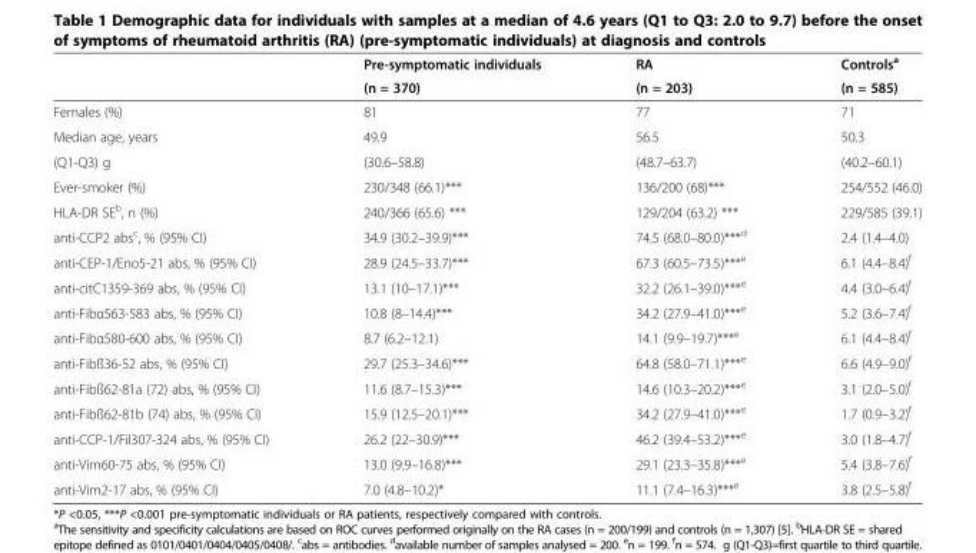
<table><thead><tr><td rowspan="2"></td><td rowspan="2">Pre-symptomatic individuals (n = 370)</td><td rowspan="2">RA (n = 203)</td><td rowspan="2">Controls<sup>a</sup> (n = 585)</td></tr><tr></tr></thead><tbody><tr><td>Females (%)</td><td>81</td><td>77</td><td>71</td></tr><tr><td>Median age, years</td><td>49.9</td><td>56.5</td><td>50.3</td></tr><tr><td>(Q1-Q3) g</td><td>(30.6–58.8)</td><td>(48.7–63.7)</td><td>(40.2–60.1)</td></tr><tr><td>Ever-smoker (%)</td><td>230/348 (66.1)***</td><td>136/200 (68)***</td><td>254/552 (46.0)</td></tr><tr><td>HLA-DR SE<sup>b</sup>, n (%)</td><td>240/366 (65.6) ***</td><td>129/204 (63.2) ***</td><td>229/585 (39.1)</td></tr><tr><td>anti-CCP2 abs<sup>c</sup>, % (95% CI)</td><td>34.9 (30.2–39.9)***</td><td>74.5 (68.0–80.0)***<sup>d</sup></td><td>2.4 (1.4–4.0)</td></tr><tr><td>anti-CEP-1/Eno5-21 abs, % (95% CI)</td><td>28.9 (24.5–33.7)***</td><td>67.3 (60.5–73.5)***<sup>e</sup></td><td>6.1 (4.4–8.4)<sup>f</sup></td></tr><tr><td>anti-citC1359-369 abs, % (95% CI)</td><td>13.1 (10–17.1)***</td><td>32.2 (26.1–39.0)***<sup>e</sup></td><td>4.4 (3.0–6.4)<sup>f</sup></td></tr><tr><td>anti-Fibα563-583 abs, % (95% CI)</td><td>10.8 (8–14.4)***</td><td>34.2 (27.9–41.0)***<sup>e</sup></td><td>5.2 (3.6–7.4)<sup>f</sup></td></tr><tr><td>anti-Fibα580-600 abs, % (95% CI)</td><td>8.7 (6.2–12.1)</td><td>14.1 (9.9–19.7)***<sup>e</sup></td><td>6.1 (4.4–8.4)<sup>f</sup></td></tr><tr><td>anti-Fibß36-52 abs, % (95% CI)</td><td>29.7 (25.3–34.6)***</td><td>64.8 (58.0–71.1)***<sup>e</sup></td><td>6.6 (4.9–9.0)<sup>f</sup></td></tr><tr><td>anti-Fibß62-81a (72) abs, % (95% CI)</td><td>11.6 (8.7–15.3)***</td><td>14.6 (10.3–20.2)***<sup>e</sup></td><td>3.1 (2.0–5.0)<sup>f</sup></td></tr><tr><td>anti-Fibß62-81b (74) abs, % (95% CI)</td><td>15.9 (12.5–20.1)***</td><td>34.2 (27.9–41.0)***<sup>e</sup></td><td>1.7 (0.9–3.2)<sup>f</sup></td></tr><tr><td>anti-CCP-1/Fil307-324 abs, % (95% CI)</td><td>26.2 (22–30.9)***</td><td>46.2 (39.4–53.2)***<sup>e</sup></td><td>3.0 (1.8–4.7)<sup>f</sup></td></tr><tr><td>anti-Vim60-75 abs, % (95% CI)</td><td>13.0 (9.9–16.8)***</td><td>29.1 (23.3–35.8)***<sup>e</sup></td><td>5.4 (3.8–7.6)<sup>f</sup></td></tr><tr><td>anti-Vim2-17 abs, % (95% CI)</td><td>7.0 (4.8–10.2)*</td><td>11.1 (7.4–16.3)***<sup>e</sup></td><td>3.8 (2.5–5.8)<sup>f</sup></td></tr></tbody></table>